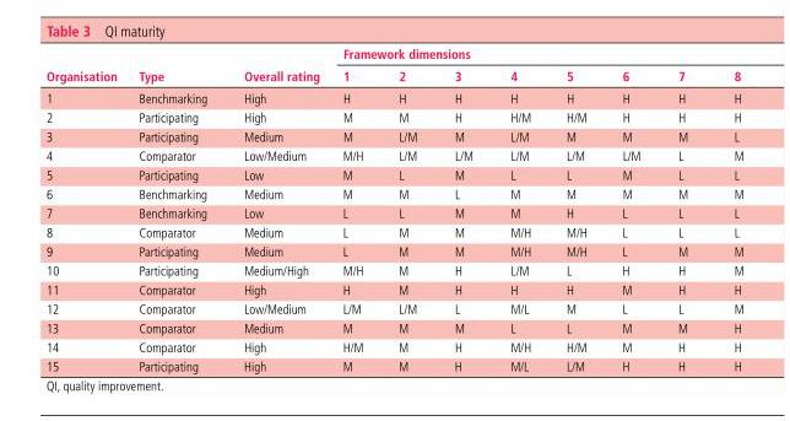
<table><thead><tr><td rowspan="2">Organisation</td><td rowspan="2">Type</td><td rowspan="2">Overall rating</td><td colspan="8">Framework dimensions</td></tr><tr><td>1</td><td>2</td><td>3</td><td>4</td><td>5</td><td>6</td><td>7</td><td>8</td></tr></thead><tbody><tr><td>1</td><td>Benchmarking</td><td>High</td><td>H</td><td>H</td><td>H</td><td>H</td><td>H</td><td>H</td><td>H</td><td>H</td></tr><tr><td>2</td><td>Participating</td><td>High</td><td>M</td><td>M</td><td>H</td><td>H/M</td><td>H/M</td><td>H</td><td>H</td><td>H</td></tr><tr><td>3</td><td>Participating</td><td>Medium</td><td>M</td><td>L/M</td><td>M</td><td>L/M</td><td>M</td><td>M</td><td>M</td><td>L</td></tr><tr><td>4</td><td>Comparator</td><td>Low/Medium</td><td>M/H</td><td>L/M</td><td>L/M</td><td>L/M</td><td>L/M</td><td>L/M</td><td>L</td><td>M</td></tr><tr><td>5</td><td>Participating</td><td>Low</td><td>M</td><td>L</td><td>M</td><td>L</td><td>L</td><td>M</td><td>L</td><td>L</td></tr><tr><td>6</td><td>Benchmarking</td><td>Medium</td><td>M</td><td>M</td><td>L</td><td>M</td><td>M</td><td>M</td><td>M</td><td>M</td></tr><tr><td>7</td><td>Benchmarking</td><td>Low</td><td>L</td><td>L</td><td>M</td><td>M</td><td>H</td><td>L</td><td>L</td><td>L</td></tr><tr><td>8</td><td>Comparator</td><td>Medium</td><td>L</td><td>M</td><td>M</td><td>M/H</td><td>M/H</td><td>L</td><td>L</td><td>L</td></tr><tr><td>9</td><td>Participating</td><td>Medium</td><td>L</td><td>M</td><td>M</td><td>M/H</td><td>M/H</td><td>L</td><td>M</td><td>M</td></tr><tr><td>10</td><td>Participating</td><td>Medium/High</td><td>M/H</td><td>M</td><td>H</td><td>L/M</td><td>L</td><td>H</td><td>H</td><td>M</td></tr><tr><td>11</td><td>Comparator</td><td>High</td><td>H</td><td>M</td><td>H</td><td>H</td><td>H</td><td>M</td><td>H</td><td>H</td></tr><tr><td>12</td><td>Comparator</td><td>Low/Medium</td><td>L/M</td><td>L/M</td><td>L</td><td>M/L</td><td>M</td><td>L</td><td>L</td><td>M</td></tr><tr><td>13</td><td>Comparator</td><td>Medium</td><td>M</td><td>M</td><td>M</td><td>L</td><td>L</td><td>M</td><td>M</td><td>H</td></tr><tr><td>14</td><td>Comparator</td><td>High</td><td>H/M</td><td>M</td><td>H</td><td>M/H</td><td>H/M</td><td>M</td><td>H</td><td>H</td></tr><tr><td>15</td><td>Participating</td><td>High</td><td>M</td><td>M</td><td>H</td><td>M/L</td><td>L/M</td><td>H</td><td>H</td><td>H</td></tr></tbody></table>